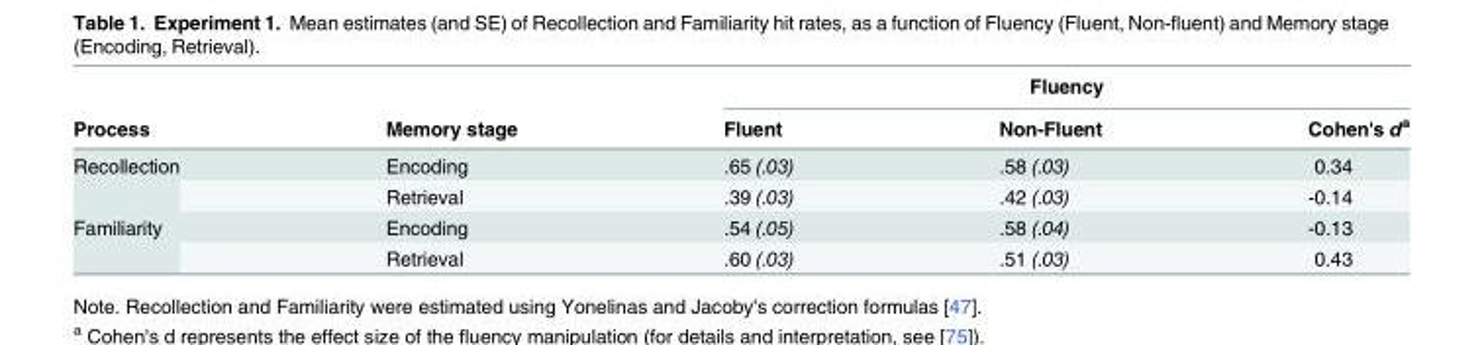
<table><thead><tr><td rowspan="2">Process</td><td rowspan="2">Memory stage</td><td colspan="3">Fluency</td></tr><tr><td>Fluent</td><td>Non-Fluent</td><td>Cohen&#x27;s d<sup>a</sup></td></tr></thead><tbody><tr><td rowspan="2">Recollection</td><td>Encoding</td><td>.65 (.03)</td><td>.58 (.03)</td><td>0.34</td></tr><tr><td>Retrieval</td><td>.39 (.03)</td><td>.42 (.03)</td><td>-0.14</td></tr><tr><td rowspan="2">Familiarity</td><td>Encoding</td><td>.54 (.05)</td><td>.58 (.04)</td><td>-0.13</td></tr><tr><td>Retrieval</td><td>.60 (.03)</td><td>.51 (.03)</td><td>0.43</td></tr></tbody></table>